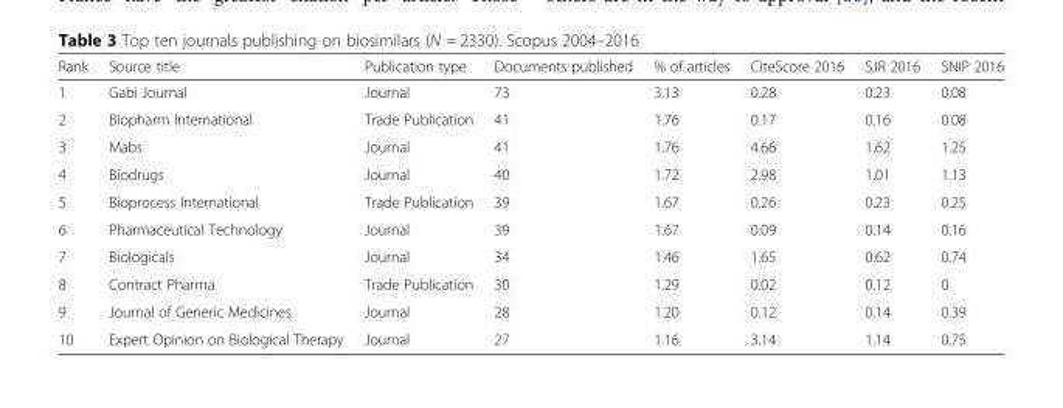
<table><thead><tr><td>Rank</td><td>Source title</td><td>Publication type</td><td>Documents published</td><td>% of articles</td><td>CiteScore 2016</td><td>SJR 2016</td><td>SNIP 2016</td></tr></thead><tbody><tr><td>1</td><td>Gabi Journal</td><td>Journal</td><td>73</td><td>3.13</td><td>0.28</td><td>0.23</td><td>0.08</td></tr><tr><td>2</td><td>Biopharm International</td><td>Trade Publication</td><td>41</td><td>1.76</td><td>0.17</td><td>0.16</td><td>0.08</td></tr><tr><td>3</td><td>Mabs</td><td>Journal</td><td>41</td><td>1.76</td><td>4.66</td><td>1.62</td><td>1.25</td></tr><tr><td>4</td><td>Biodrugs</td><td>Journal</td><td>40</td><td>1.72</td><td>2.98</td><td>1.01</td><td>1.13</td></tr><tr><td>5</td><td>Bioprocess International</td><td>Trade Publication</td><td>39</td><td>1.67</td><td>0.26</td><td>0.23</td><td>0.25</td></tr><tr><td>6</td><td>Pharmaceutical Technology</td><td>Journal</td><td>39</td><td>1.67</td><td>0.09</td><td>0.14</td><td>0.16</td></tr><tr><td>7</td><td>Biologicals</td><td>Journal</td><td>34</td><td>1.46</td><td>1.65</td><td>0.62</td><td>0.74</td></tr><tr><td>8</td><td>Contract Pharma</td><td>Trade Publication</td><td>30</td><td>1.29</td><td>0.02</td><td>0.12</td><td>0</td></tr><tr><td>9</td><td>Journal of Generic Medicines</td><td>Journal</td><td>28</td><td>1.20</td><td>0.12</td><td>0.14</td><td>0.39</td></tr><tr><td>10</td><td>Expert Opinion on Biological Therapy</td><td>Journal</td><td>27</td><td>1.16</td><td>3.14</td><td>1.14</td><td>0.75</td></tr></tbody></table>